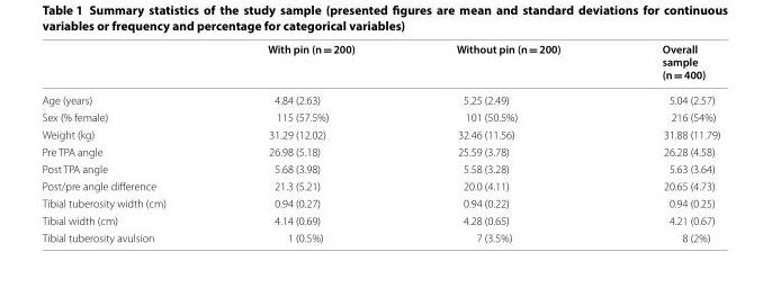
<table><thead><tr><td></td><td>With pin (n = 200)</td><td>Without pin (n = 200)</td><td>Overall sample (n = 400)</td></tr></thead><tbody><tr><td>Age (years)</td><td>4.84 (2.63)</td><td>5.25 (2.49)</td><td>5.04 (2.57)</td></tr><tr><td>Sex (% female)</td><td>115 (57.5%)</td><td>101 (50.5%)</td><td>216 (54%)</td></tr><tr><td>Weight (kg)</td><td>31.29 (12.02)</td><td>32.46 (11.56)</td><td>31.88 (11.79)</td></tr><tr><td>Pre TPA angle</td><td>26.98 (5.18)</td><td>25.59 (3.78)</td><td>26.28 (4.58)</td></tr><tr><td>Post TPA angle</td><td>5.68 (3.98)</td><td>5.58 (3.28)</td><td>5.63 (3.64)</td></tr><tr><td>Post/pre angle difference</td><td>21.3 (5.21)</td><td>20.0 (4.11)</td><td>20.65 (4.73)</td></tr><tr><td>Tibial tuberosity width (cm)</td><td>0.94 (0.27)</td><td>0.94 (0.22)</td><td>0.94 (0.25)</td></tr><tr><td>Tibial width (cm)</td><td>4.14 (0.69)</td><td>4.28 (0.65)</td><td>4.21 (0.67)</td></tr><tr><td>Tibial tuberosity avulsion</td><td>1 (0.5%)</td><td>7 (3.5%)</td><td>8 (2%)</td></tr></tbody></table>